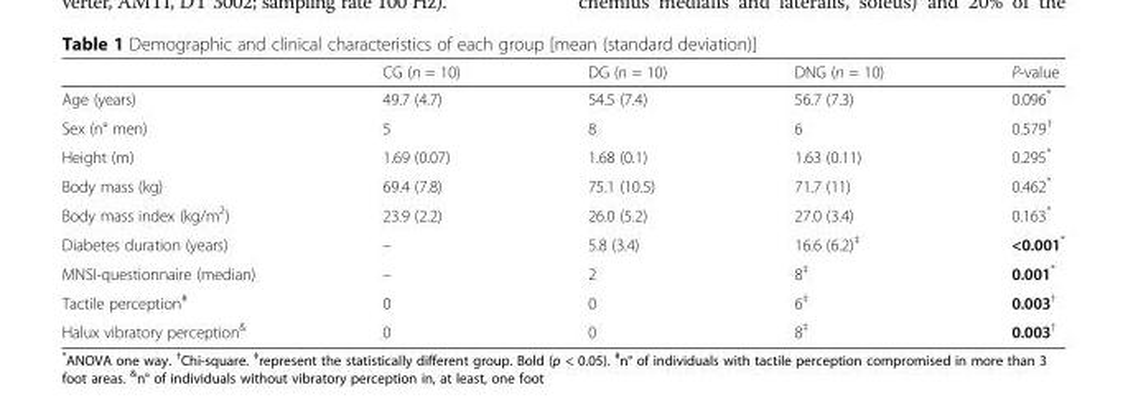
<table><thead><tr><td></td><td>CG (n = 10)</td><td>DG (n = 10)</td><td>DNG (n = 10)</td><td>P-value</td></tr></thead><tbody><tr><td>Age (years)</td><td>49.7 (4.7)</td><td>54.5 (7.4)</td><td>56.7 (7.3)</td><td>0.096*</td></tr><tr><td>Sex (n° men)</td><td>5</td><td>8</td><td>6</td><td>0.579<sup>†</sup></td></tr><tr><td>Height (m)</td><td>1.69 (0.07)</td><td>1.68 (0.1)</td><td>1.63 (0.11)</td><td>0.295*</td></tr><tr><td>Body mass (kg)</td><td>69.4 (7.8)</td><td>75.1 (10.5)</td><td>71.7 (11)</td><td>0.462*</td></tr><tr><td>Body mass index (kg/m<sup>2</sup>)</td><td>23.9 (2.2)</td><td>26.0 (5.2)</td><td>27.0 (3.4)</td><td>0.163*</td></tr><tr><td>Diabetes duration (years)</td><td>–</td><td>5.8 (3.4)</td><td>16.6 (6.2)<sup>‡</sup></td><td>&lt;0.001*</td></tr><tr><td>MNSI-questionnaire (median)</td><td>–</td><td>2</td><td>8<sup>‡</sup></td><td>0.001*</td></tr><tr><td>Tactile perception<sup>#</sup></td><td>0</td><td>0</td><td>6<sup>‡</sup></td><td>0.003<sup>†</sup></td></tr><tr><td>Halux vibratory perception<sup>&amp;</sup></td><td>0</td><td>0</td><td>8<sup>‡</sup></td><td>0.003<sup>†</sup></td></tr></tbody></table>